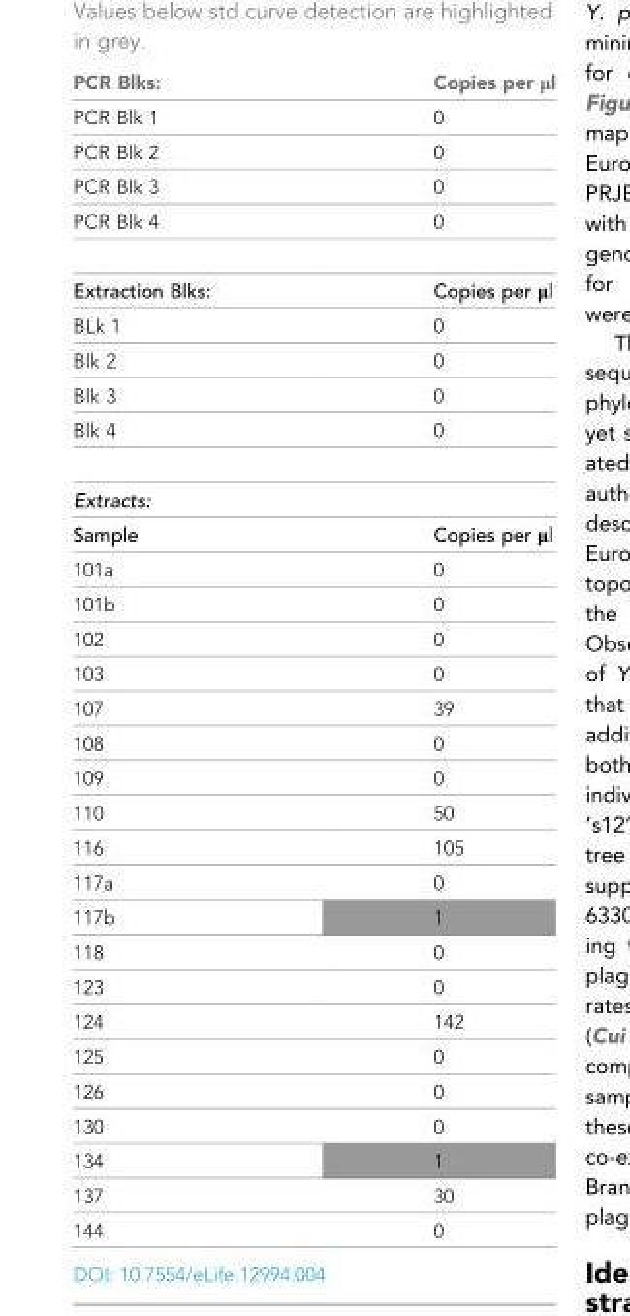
<table><thead><tr><td>PCR Blks:</td><td>Copies per μl</td></tr></thead><tbody><tr><td>PCR Blk 1</td><td>0</td></tr><tr><td>PCR Blk 2</td><td>0</td></tr><tr><td>PCR Blk 3</td><td>0</td></tr><tr><td>PCR Blk 4</td><td>0</td></tr><tr><td>Extraction Blks:</td><td>Copies per μl</td></tr><tr><td>BLk 1</td><td>0</td></tr><tr><td>Blk 2</td><td>0</td></tr><tr><td>Blk 3</td><td>0</td></tr><tr><td>Blk 4</td><td>0</td></tr><tr><td colspan="2">Extracts:</td></tr><tr><td>Sample</td><td>Copies per μl</td></tr><tr><td>101a</td><td>0</td></tr><tr><td>101b</td><td>0</td></tr><tr><td>102</td><td>0</td></tr><tr><td>103</td><td>0</td></tr><tr><td>107</td><td>39</td></tr><tr><td>108</td><td>0</td></tr><tr><td>109</td><td>0</td></tr><tr><td>110</td><td>50</td></tr><tr><td>116</td><td>105</td></tr><tr><td>117a</td><td>0</td></tr><tr><td>117b</td><td>1</td></tr><tr><td>118</td><td>0</td></tr><tr><td>123</td><td>0</td></tr><tr><td>124</td><td>142</td></tr><tr><td>125</td><td>0</td></tr><tr><td>126</td><td>0</td></tr><tr><td>130</td><td>0</td></tr><tr><td>134</td><td>1</td></tr><tr><td>137</td><td>30</td></tr><tr><td>144</td><td>0</td></tr></tbody></table>